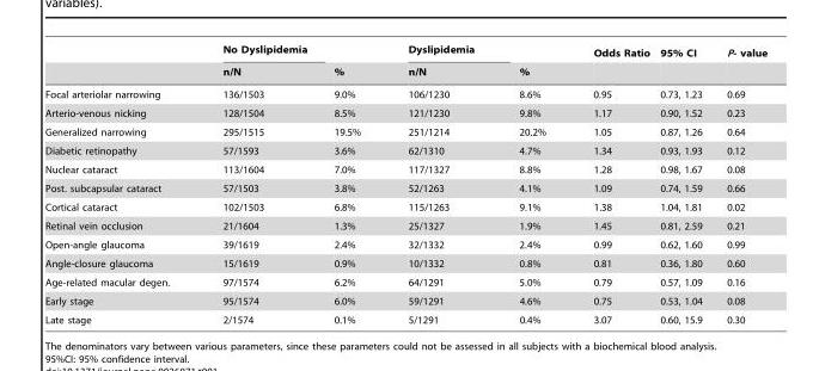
<table><thead><tr><td rowspan="2"></td><td rowspan="2">No Dyslipidemia n/N</td><td rowspan="2">%</td><td rowspan="2">Dyslipidemia n/N</td><td rowspan="2">%</td><td rowspan="2">Odds Ratio</td><td rowspan="2">95% CI</td><td rowspan="2">P- value</td></tr><tr></tr></thead><tbody><tr><td>Focal arteriolar narrowing</td><td>136/1503</td><td>9.0%</td><td>106/1230</td><td>8.6%</td><td>0.95</td><td>0.73, 1.23</td><td>0.69</td></tr><tr><td>Arterio-venous nicking</td><td>128/1504</td><td>8.5%</td><td>121/1230</td><td>9.8%</td><td>1.17</td><td>0.90, 1.52</td><td>0.23</td></tr><tr><td>Generalized narrowing</td><td>295/1515</td><td>19.5%</td><td>251/1214</td><td>20.2%</td><td>1.05</td><td>0.87, 1.26</td><td>0.64</td></tr><tr><td>Diabetic retinopathy</td><td>57/1593</td><td>3.6%</td><td>62/1310</td><td>4.7%</td><td>1.34</td><td>0.93, 1.93</td><td>0.12</td></tr><tr><td>Nuclear cataract</td><td>113/1604</td><td>7.0%</td><td>117/1327</td><td>8.8%</td><td>1.28</td><td>0.98, 1.67</td><td>0.08</td></tr><tr><td>Post. subcapsular cataract</td><td>57/1503</td><td>3.8%</td><td>52/1263</td><td>4.1%</td><td>1.09</td><td>0.74, 1.59</td><td>0.66</td></tr><tr><td>Cortical cataract</td><td>102/1503</td><td>6.8%</td><td>115/1263</td><td>9.1%</td><td>1.38</td><td>1.04, 1.81</td><td>0.02</td></tr><tr><td>Retinal vein occlusion</td><td>21/1604</td><td>1.3%</td><td>25/1327</td><td>1.9%</td><td>1.45</td><td>0.81, 2.59</td><td>0.21</td></tr><tr><td>Open-angle glaucoma</td><td>39/1619</td><td>2.4%</td><td>32/1332</td><td>2.4%</td><td>0.99</td><td>0.62, 1.60</td><td>0.99</td></tr><tr><td>Angle-closure glaucoma</td><td>15/1619</td><td>0.9%</td><td>10/1332</td><td>0.8%</td><td>0.81</td><td>0.36, 1.80</td><td>0.60</td></tr><tr><td>Age-related macular degen.</td><td>97/1574</td><td>6.2%</td><td>64/1291</td><td>5.0%</td><td>0.79</td><td>0.57, 1.09</td><td>0.16</td></tr><tr><td>Early stage</td><td>95/1574</td><td>6.0%</td><td>59/1291</td><td>4.6%</td><td>0.75</td><td>0.53, 1.04</td><td>0.08</td></tr><tr><td>Late stage</td><td>2/1574</td><td>0.1%</td><td>5/1291</td><td>0.4%</td><td>3.07</td><td>0.60, 15.9</td><td>0.30</td></tr></tbody></table>